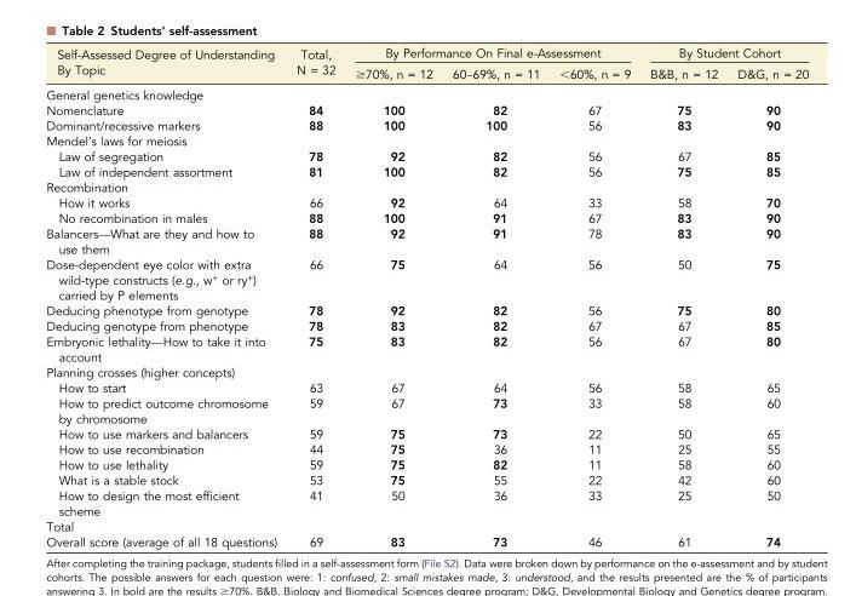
<table><thead><tr><td rowspan="2">Self-Assessed Degree of Understanding By Topic</td><td rowspan="2">Total, N = 32</td><td colspan="3">By Performance On Final e-Assessment</td><td colspan="2">By Student Cohort</td></tr><tr><td>≥70%, n = 12</td><td>60–69%, n = 11</td><td>&lt;60%, n = 9</td><td>B&amp;B, n = 12</td><td>D&amp;G, n = 20</td></tr></thead><tbody><tr><td colspan="7">General genetics knowledge</td></tr><tr><td>Nomenclature</td><td>84</td><td>100</td><td>82</td><td>67</td><td>75</td><td>90</td></tr><tr><td>Dominant/recessive markers</td><td>88</td><td>100</td><td>100</td><td>56</td><td>83</td><td>90</td></tr><tr><td colspan="7">Mendel’s laws for meiosis</td></tr><tr><td>Law of segregation</td><td>78</td><td>92</td><td>82</td><td>56</td><td>67</td><td>85</td></tr><tr><td>Law of independent assortment</td><td>81</td><td>100</td><td>82</td><td>56</td><td>75</td><td>85</td></tr><tr><td colspan="7">Recombination</td></tr><tr><td>How it works</td><td>66</td><td>92</td><td>64</td><td>33</td><td>58</td><td>70</td></tr><tr><td>No recombination in males</td><td>88</td><td>100</td><td>91</td><td>67</td><td>83</td><td>90</td></tr><tr><td>Balancers—What are they and how to use them</td><td>88</td><td>92</td><td>91</td><td>78</td><td>83</td><td>90</td></tr><tr><td>Dose-dependent eye color with extra wild-type constructs (e.g., w<sup>+</sup> or ry<sup>+</sup>) carried by P elements</td><td>66</td><td>75</td><td>64</td><td>56</td><td>50</td><td>75</td></tr><tr><td>Deducing phenotype from genotype</td><td>78</td><td>92</td><td>82</td><td>56</td><td>75</td><td>80</td></tr><tr><td>Deducing genotype from phenotype</td><td>78</td><td>83</td><td>82</td><td>67</td><td>67</td><td>85</td></tr><tr><td>Embryonic lethality—How to take it into account</td><td>75</td><td>83</td><td>82</td><td>56</td><td>67</td><td>80</td></tr><tr><td colspan="7">Planning crosses (higher concepts)</td></tr><tr><td>How to start</td><td>63</td><td>67</td><td>64</td><td>56</td><td>58</td><td>65</td></tr><tr><td>How to predict outcome chromosome by chromosome</td><td>59</td><td>67</td><td>73</td><td>33</td><td>58</td><td>60</td></tr><tr><td>How to use markers and balancers</td><td>59</td><td>75</td><td>73</td><td>22</td><td>50</td><td>65</td></tr><tr><td>How to use recombination</td><td>44</td><td>75</td><td>36</td><td>11</td><td>25</td><td>55</td></tr><tr><td>How to use lethality</td><td>59</td><td>75</td><td>82</td><td>11</td><td>58</td><td>60</td></tr><tr><td>What is a stable stock</td><td>53</td><td>75</td><td>55</td><td>22</td><td>42</td><td>60</td></tr><tr><td>How to design the most efficient scheme</td><td>41</td><td>50</td><td>36</td><td>33</td><td>25</td><td>50</td></tr><tr><td colspan="7">Total</td></tr><tr><td>Overall score (average of all 18 questions)</td><td>69</td><td>83</td><td>73</td><td>46</td><td>61</td><td>74</td></tr></tbody></table>